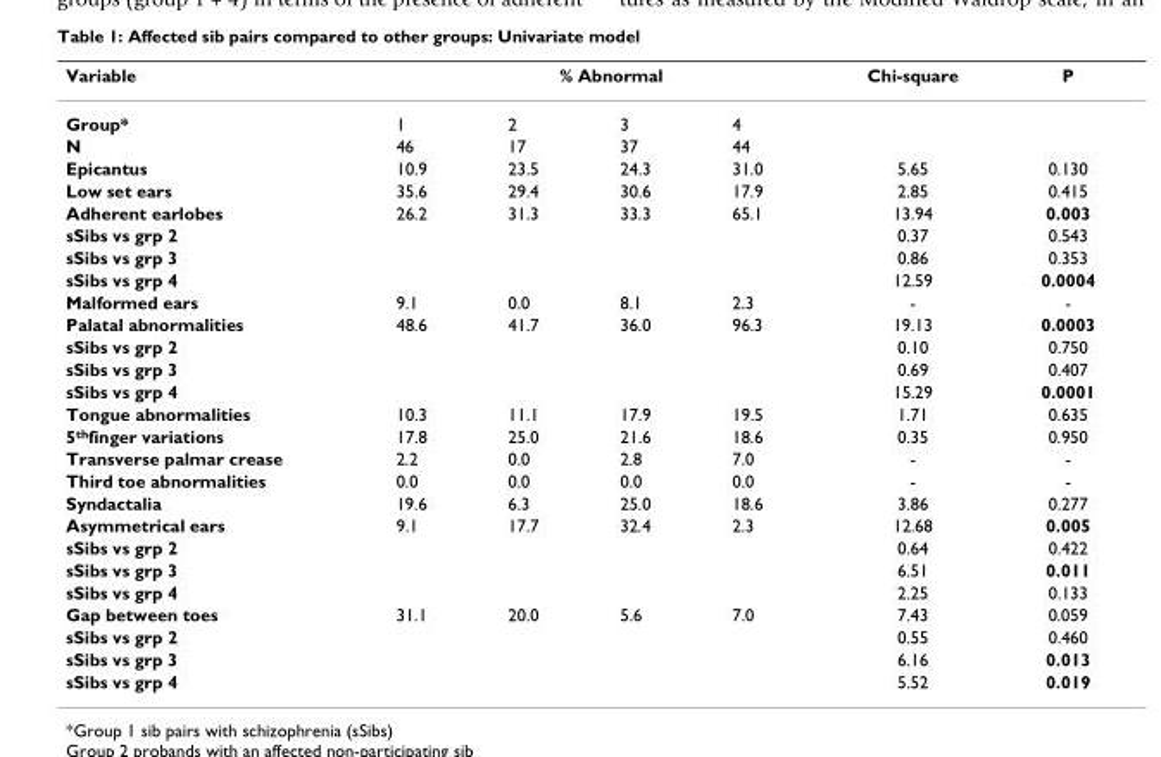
<table><thead><tr><td rowspan="2">Variable Group*</td><td colspan="4">% Abnormal</td><td rowspan="2">Chi-square</td><td rowspan="2">P</td></tr><tr><td>1</td><td>2</td><td>3</td><td>4</td></tr></thead><tbody><tr><td>N</td><td>46</td><td>17</td><td>37</td><td>44</td><td></td><td></td></tr><tr><td>Epicantus</td><td>10.9</td><td>23.5</td><td>24.3</td><td>31.0</td><td>5.65</td><td>0.130</td></tr><tr><td>Low set ears</td><td>35.6</td><td>29.4</td><td>30.6</td><td>17.9</td><td>2.85</td><td>0.415</td></tr><tr><td>Adherent earlobes</td><td>26.2</td><td>31.3</td><td>33.3</td><td>65.1</td><td>13.94</td><td>0.003</td></tr><tr><td>sSibs vs grp 2</td><td></td><td></td><td></td><td></td><td>0.37</td><td>0.543</td></tr><tr><td>sSibs vs grp 3</td><td></td><td></td><td></td><td></td><td>0.86</td><td>0.353</td></tr><tr><td>sSibs vs grp 4</td><td></td><td></td><td></td><td></td><td>12.59</td><td>0.0004</td></tr><tr><td>Malformed ears</td><td>9.1</td><td>0.0</td><td>8.1</td><td>2.3</td><td>-</td><td>-</td></tr><tr><td>Palatal abnormalities</td><td>48.6</td><td>41.7</td><td>36.0</td><td>96.3</td><td>19.13</td><td>0.0003</td></tr><tr><td>sSibs vs grp 2</td><td></td><td></td><td></td><td></td><td>0.10</td><td>0.750</td></tr><tr><td>sSibs vs grp 3</td><td></td><td></td><td></td><td></td><td>0.69</td><td>0.407</td></tr><tr><td>sSibs vs grp 4</td><td></td><td></td><td></td><td></td><td>15.29</td><td>0.0001</td></tr><tr><td>Tongue abnormalities</td><td>10.3</td><td>11.1</td><td>17.9</td><td>19.5</td><td>1.71</td><td>0.635</td></tr><tr><td>5<sup>th</sup>finger variations</td><td>17.8</td><td>25.0</td><td>21.6</td><td>18.6</td><td>0.35</td><td>0.950</td></tr><tr><td>Transverse palmar crease</td><td>2.2</td><td>0.0</td><td>2.8</td><td>7.0</td><td>-</td><td>-</td></tr><tr><td>Third toe abnormalities</td><td>0.0</td><td>0.0</td><td>0.0</td><td>0.0</td><td>-</td><td>-</td></tr><tr><td>Syndactalia</td><td>19.6</td><td>6.3</td><td>25.0</td><td>18.6</td><td>3.86</td><td>0.277</td></tr><tr><td>Asymmetrical ears</td><td>9.1</td><td>17.7</td><td>32.4</td><td>2.3</td><td>12.68</td><td>0.005</td></tr><tr><td>sSibs vs grp 2</td><td></td><td></td><td></td><td></td><td>0.64</td><td>0.422</td></tr><tr><td>sSibs vs grp 3</td><td></td><td></td><td></td><td></td><td>6.51</td><td>0.011</td></tr><tr><td>sSibs vs grp 4</td><td></td><td></td><td></td><td></td><td>2.25</td><td>0.133</td></tr><tr><td>Gap between toes</td><td>31.1</td><td>20.0</td><td>5.6</td><td>7.0</td><td>7.43</td><td>0.059</td></tr><tr><td>sSibs vs grp 2</td><td></td><td></td><td></td><td></td><td>0.55</td><td>0.460</td></tr><tr><td>sSibs vs grp 3</td><td></td><td></td><td></td><td></td><td>6.16</td><td>0.013</td></tr><tr><td>sSibs vs grp 4</td><td></td><td></td><td></td><td></td><td>5.52</td><td>0.019</td></tr></tbody></table>